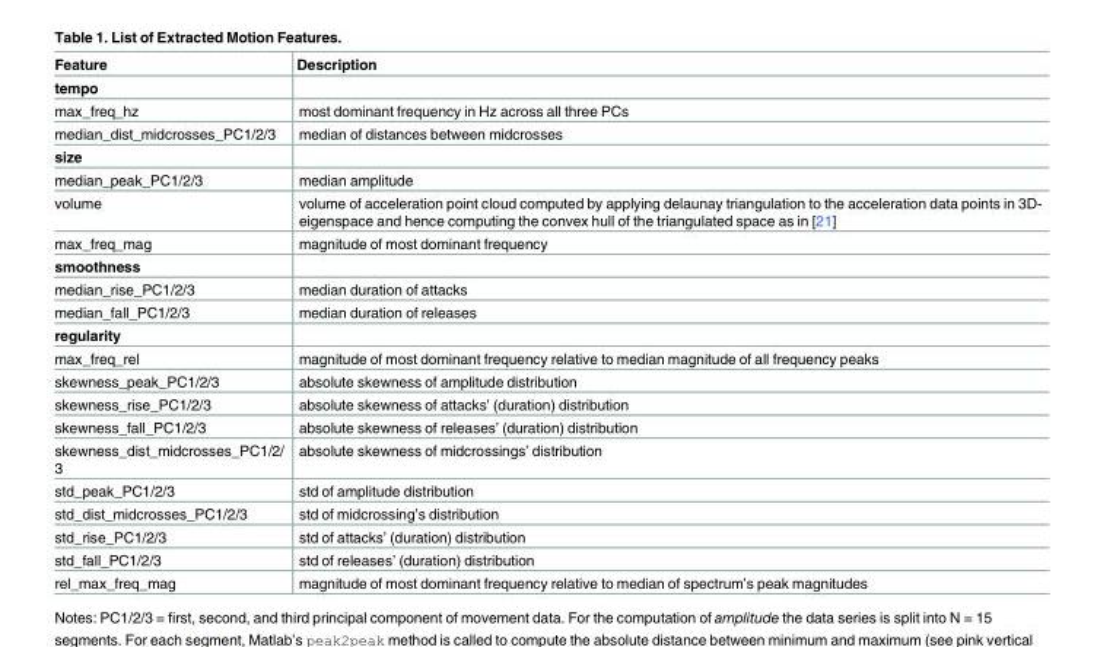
<table><thead><tr><td>Feature</td><td>Description</td></tr></thead><tbody><tr><td colspan="2">tempo</td></tr><tr><td>max_freq_hz</td><td>most dominant frequency in Hz across all three PCs</td></tr><tr><td>median_dist_midcrosses_PC1/2/3</td><td>median of distances between midcrosses</td></tr><tr><td colspan="2">size</td></tr><tr><td>median_peak_PC1/2/3</td><td>median amplitude</td></tr><tr><td>volume</td><td>volume of acceleration point cloud computed by applying delaunay triangulation to the acceleration data points in 3D- eigenspace and hence computing the convex hull of the triangulated space as in [21]</td></tr><tr><td>max_freq_mag</td><td>magnitude of most dominant frequency</td></tr><tr><td colspan="2">smoothness</td></tr><tr><td>median_rise_PC1/2/3</td><td>median duration of attacks</td></tr><tr><td>median_fall_PC1/2/3</td><td>median duration of releases</td></tr><tr><td colspan="2">regularity</td></tr><tr><td>max_freq_rel</td><td>magnitude of most dominant frequency relative to median magnitude of all frequency peaks</td></tr><tr><td>skewness_peak_PC1/2/3</td><td>absolute skewness of amplitude distribution</td></tr><tr><td>skewness_rise_PC1/2/3</td><td>absolute skewness of attacks’ (duration) distribution</td></tr><tr><td>skewness_fall_PC1/2/3</td><td>absolute skewness of releases’ (duration) distribution</td></tr><tr><td>skewness_dist_midcrosses_PC1/2/ 3</td><td>absolute skewness of midcrossings’ distribution</td></tr><tr><td>std_peak_PC1/2/3</td><td>std of amplitude distribution</td></tr><tr><td>std_dist_midcrosses_PC1/2/3</td><td>std of midcrossing’s distribution</td></tr><tr><td>std_rise_PC1/2/3</td><td>std of attacks’ (duration) distribution</td></tr><tr><td>std_fall_PC1/2/3</td><td>std of releases’ (duration) distribution</td></tr><tr><td>rel_max_freq_mag</td><td>magnitude of most dominant frequency relative to median of spectrum’s peak magnitudes</td></tr></tbody></table>